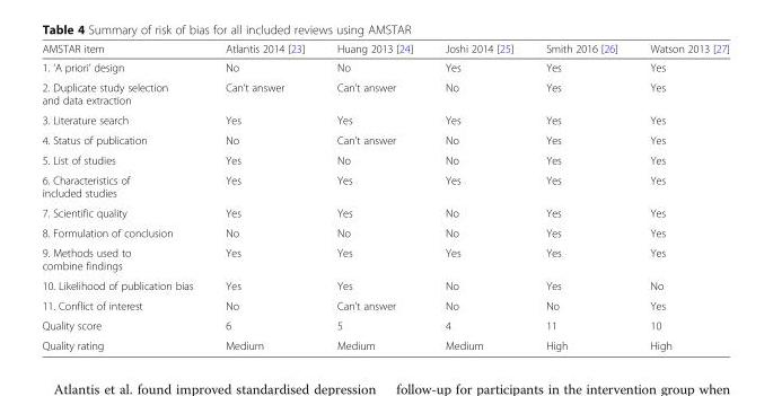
<table><thead><tr><td>AMSTAR item</td><td>Atlantis 2014 [23]</td><td>Huang 2013 [24]</td><td>Joshi 2014 [25]</td><td>Smith 2016 [26]</td><td>Watson 2013 [27]</td></tr></thead><tbody><tr><td>1. ‘A priori’ design</td><td>No</td><td>No</td><td>Yes</td><td>Yes</td><td>Yes</td></tr><tr><td>2. Duplicate study selection and data extraction</td><td>Can’t answer</td><td>Can’t answer</td><td>No</td><td>Yes</td><td>Yes</td></tr><tr><td>3. Literature search</td><td>Yes</td><td>Yes</td><td>Yes</td><td>Yes</td><td>Yes</td></tr><tr><td>4. Status of publication</td><td>No</td><td>Can’t answer</td><td>No</td><td>Yes</td><td>Yes</td></tr><tr><td>5. List of studies</td><td>Yes</td><td>No</td><td>No</td><td>Yes</td><td>Yes</td></tr><tr><td>6. Characteristics of included studies</td><td>Yes</td><td>Yes</td><td>Yes</td><td>Yes</td><td>Yes</td></tr><tr><td>7. Scientific quality</td><td>Yes</td><td>Yes</td><td>No</td><td>Yes</td><td>Yes</td></tr><tr><td>8. Formulation of conclusion</td><td>No</td><td>No</td><td>No</td><td>Yes</td><td>Yes</td></tr><tr><td>9. Methods used to combine findings</td><td>Yes</td><td>Yes</td><td>Yes</td><td>Yes</td><td>Yes</td></tr><tr><td>10. Likelihood of publication bias</td><td>Yes</td><td>Yes</td><td>No</td><td>Yes</td><td>No</td></tr><tr><td>11. Conflict of interest</td><td>No</td><td>Can’t answer</td><td>No</td><td>No</td><td>Yes</td></tr><tr><td>Quality score</td><td>6</td><td>5</td><td>4</td><td>11</td><td>10</td></tr><tr><td>Quality rating</td><td>Medium</td><td>Medium</td><td>Medium</td><td>High</td><td>High</td></tr></tbody></table>